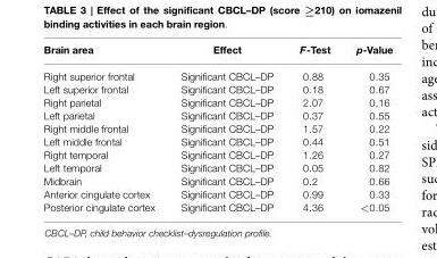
<table><thead><tr><td>Brain area</td><td>Effect</td><td>F-Test</td><td>p-Value</td></tr></thead><tbody><tr><td>Right superior frontal</td><td>Significant CBCL–DP</td><td>0.88</td><td>0.35</td></tr><tr><td>Left superior frontal</td><td>Significant CBCL–DP</td><td>0.18</td><td>0.67</td></tr><tr><td>Right parietal</td><td>Significant CBCL–DP</td><td>2.07</td><td>0.16</td></tr><tr><td>Left parietal</td><td>Significant CBCL–DP</td><td>0.37</td><td>0.55</td></tr><tr><td>Right middle frontal</td><td>Significant CBCL–DP</td><td>1.57</td><td>0.22</td></tr><tr><td>Left middle frontal</td><td>Significant CBCL–DP</td><td>0.44</td><td>0.51</td></tr><tr><td>Right temporal</td><td>Significant CBCL–DP</td><td>1.26</td><td>0.27</td></tr><tr><td>Left temporal</td><td>Significant CBCL–DP</td><td>0.05</td><td>0.82</td></tr><tr><td>Midbrain</td><td>Significant CBCL–DP</td><td>0.2</td><td>0.66</td></tr><tr><td>Anterior cingulate cortex</td><td>Significant CBCL–DP</td><td>0.99</td><td>0.33</td></tr><tr><td>Posterior cingulate cortex</td><td>Significant CBCL–DP</td><td>4.36</td><td>&lt;0.05</td></tr></tbody></table>